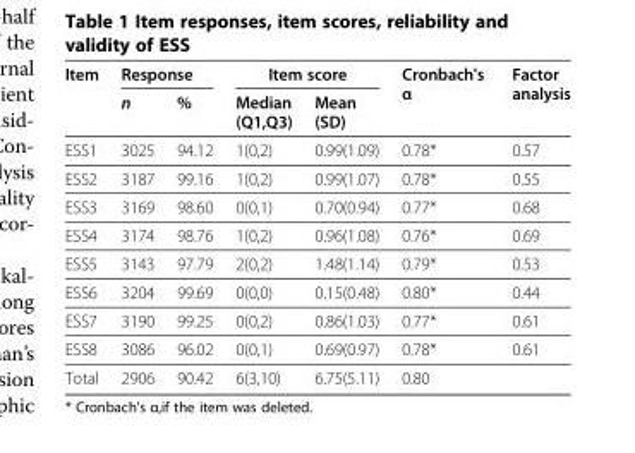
<table><thead><tr><td rowspan="2">Item</td><td colspan="2">Response</td><td colspan="2">Item score</td><td rowspan="2">Cronbach&#x27;s α</td><td rowspan="2">Factor analysis</td></tr><tr><td>n</td><td>%</td><td>Median (Q1,Q3)</td><td>Mean (SD)</td></tr></thead><tbody><tr><td>ESS1</td><td>3025</td><td>94.12</td><td>1(0,2)</td><td>0.99(1.09)</td><td>0.78*</td><td>0.57</td></tr><tr><td>ESS2</td><td>3187</td><td>99.16</td><td>1(0,2)</td><td>0.99(1.07)</td><td>0.78*</td><td>0.55</td></tr><tr><td>ESS3</td><td>3169</td><td>98.60</td><td>0(0,1)</td><td>0.70(0.94)</td><td>0.77*</td><td>0.68</td></tr><tr><td>ESS4</td><td>3174</td><td>98.76</td><td>1(0,2)</td><td>0.96(1.08)</td><td>0.76*</td><td>0.69</td></tr><tr><td>ESS5</td><td>3143</td><td>97.79</td><td>2(0,2)</td><td>1.48(1.14)</td><td>0.79*</td><td>0.53</td></tr><tr><td>ESS6</td><td>3204</td><td>99.69</td><td>0(0,0)</td><td>0.15(0.48)</td><td>0.80*</td><td>0.44</td></tr><tr><td>ESS7</td><td>3190</td><td>99.25</td><td>0(0,2)</td><td>0.86(1.03)</td><td>0.77*</td><td>0.61</td></tr><tr><td>ESS8</td><td>3086</td><td>96.02</td><td>0(0,1)</td><td>0.69(0.97)</td><td>0.78*</td><td>0.61</td></tr><tr><td>Total</td><td>2906</td><td>90.42</td><td>6(3,10)</td><td>6.75(5.11)</td><td>0.80</td><td></td></tr></tbody></table>